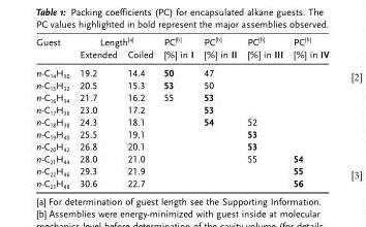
<table><thead><tr><td rowspan="2">Guest</td><td colspan="2">Length[a]</td><td rowspan="2">PC[b] [%] in I</td><td rowspan="2">PC[b] [%] in II</td><td rowspan="2">PC[b] [%] in III</td><td rowspan="2">PC[b] [%] in IV</td></tr><tr><td>Extended</td><td>Coiled</td></tr></thead><tbody><tr><td>n-C<sub>14</sub>H<sub>30</sub></td><td>19.2</td><td>14.4</td><td>50</td><td>47</td><td></td><td></td></tr><tr><td>n-C<sub>15</sub>H<sub>32</sub></td><td>20.5</td><td>15.3</td><td>53</td><td>50</td><td></td><td></td></tr><tr><td>n-C<sub>16</sub>H<sub>34</sub></td><td>21.7</td><td>16.2</td><td>55</td><td>53</td><td></td><td></td></tr><tr><td>n-C<sub>17</sub>H<sub>36</sub></td><td>23.0</td><td>17.2</td><td></td><td>53</td><td></td><td></td></tr><tr><td>n-C<sub>18</sub>H<sub>38</sub></td><td>24.3</td><td>18.1</td><td></td><td>54</td><td>52</td><td></td></tr><tr><td>n-C<sub>19</sub>H<sub>40</sub></td><td>25.5</td><td>19.1</td><td></td><td></td><td>53</td><td></td></tr><tr><td>n-C<sub>20</sub>H<sub>42</sub></td><td>26.8</td><td>20.1</td><td></td><td></td><td>53</td><td></td></tr><tr><td>n-C<sub>21</sub>H<sub>44</sub></td><td>28.0</td><td>21.0</td><td></td><td></td><td>55</td><td>54</td></tr><tr><td>n-C<sub>22</sub>H<sub>46</sub></td><td>29.3</td><td>21.9</td><td></td><td></td><td></td><td>55</td></tr><tr><td>n-C<sub>23</sub>H<sub>48</sub></td><td>30.6</td><td>22.7</td><td></td><td></td><td></td><td>56</td></tr></tbody></table>